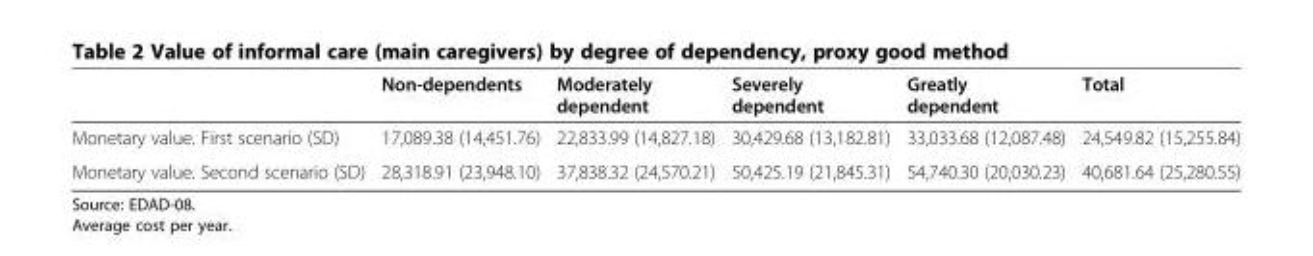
<table><thead><tr><td></td><td>Non-dependents</td><td>Moderately dependent</td><td>Severely dependent</td><td>Greatly dependent</td><td>Total</td></tr></thead><tbody><tr><td>Monetary value. First scenario (SD)</td><td>17,089.38 (14,451.76)</td><td>22,833.99 (14,827.18)</td><td>30,429.68 (13,182.81)</td><td>33,033.68 (12,087.48)</td><td>24,549.82 (15,255.84)</td></tr><tr><td>Monetary value. Second scenario (SD)</td><td>28,318.91 (23,948.10)</td><td>37,838.32 (24,570.21)</td><td>50,425.19 (21,845.31)</td><td>54,740.30 (20,030.23)</td><td>40,681.64 (25,280.55)</td></tr></tbody></table>